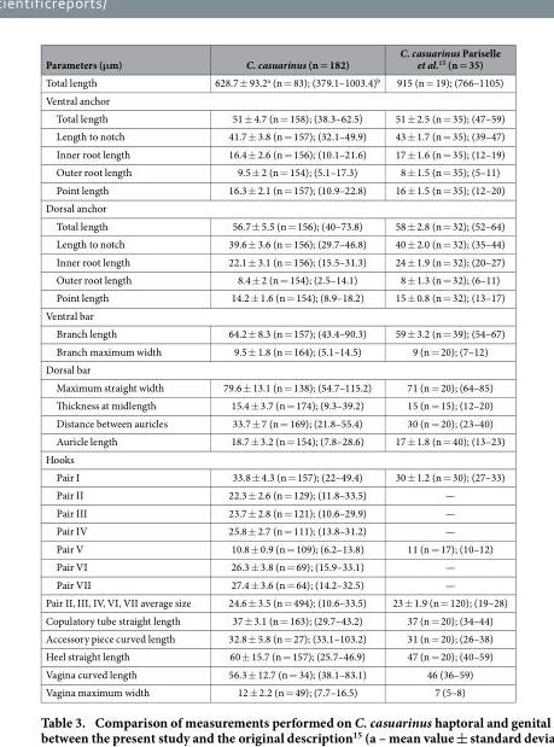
<table><thead><tr><td>Parameters (μm)</td><td>C. casuarinus (n = 182)</td><td>C. casuarinus Pariselle et al.<sup>15</sup> (n = 35)</td></tr></thead><tbody><tr><td>Total length</td><td>628.7 ± 93.2<sup>a</sup> (n = 83); (379.1–1003.4)<sup>b</sup></td><td>915 (n = 19); (766–1105)</td></tr><tr><td colspan="3">Ventral anchor</td></tr><tr><td>Total length</td><td>51 ± 4.7 (n = 158); (38.3–62.5)</td><td>51 ± 2.5 (n = 35); (47–59)</td></tr><tr><td>Length to notch</td><td>41.7 ± 3.8 (n = 157); (32.1–49.9)</td><td>43 ± 1.7 (n = 35); (39–47)</td></tr><tr><td>Inner root length</td><td>16.4 ± 2.6 (n = 156); (10.1–21.6)</td><td>17 ± 1.6 (n = 35); (12–19)</td></tr><tr><td>Outer root length</td><td>9.5 ± 2 (n = 154); (5.1–17.3)</td><td>8 ± 1.5 (n = 35); (5–11)</td></tr><tr><td>Point length</td><td>16.3 ± 2.1 (n = 157); (10.9–22.8)</td><td>16 ± 1.5 (n = 35); (12–20)</td></tr><tr><td colspan="3">Dorsal anchor</td></tr><tr><td>Total length</td><td>56.7 ± 5.5 (n = 156); (40–73.8)</td><td>58 ± 2.8 (n = 32); (52–64)</td></tr><tr><td>Length to notch</td><td>39.6 ± 3.6 (n = 156); (29.7–46.8)</td><td>40 ± 2.0 (n = 32); (35–44)</td></tr><tr><td>Inner root length</td><td>22.1 ± 3.1 (n = 156); (15.5–31.3)</td><td>24 ± 1.9 (n = 32); (20–27)</td></tr><tr><td>Outer root length</td><td>8.4 ± 2 (n = 154); (2.5–14.1)</td><td>8 ± 1.3 (n = 32); (6–11)</td></tr><tr><td>Point length</td><td>14.2 ± 1.6 (n = 154); (8.9–18.2)</td><td>15 ± 0.8 (n = 32); (13–17)</td></tr><tr><td colspan="3">Ventral bar</td></tr><tr><td>Branch length</td><td>64.2 ± 8.3 (n = 157); (43.4–90.3)</td><td>59 ± 3.2 (n = 39); (54–67)</td></tr><tr><td>Branch maximum width</td><td>9.5 ± 1.8 (n = 164); (5.1–14.5)</td><td>9 (n = 20); (7–12)</td></tr><tr><td colspan="3">Dorsal bar</td></tr><tr><td>Maximum straight width</td><td>79.6 ± 13.1 (n = 138); (54.7–115.2)</td><td>71 (n = 20); (64–85)</td></tr><tr><td>Thickness at midlength</td><td>15.4 ± 3.7 (n = 174); (9.3–39.2)</td><td>15 (n = 15); (12–20)</td></tr><tr><td>Distance between auricles</td><td>33.7 ± 7 (n = 169); (21.8–55.4)</td><td>30 (n = 20); (23–40)</td></tr><tr><td>Auricle length</td><td>18.7 ± 3.2 (n = 154); (7.8–28.6)</td><td>17 ± 1.8 (n = 40); (13–23)</td></tr><tr><td colspan="3">Hooks</td></tr><tr><td>Pair I</td><td>33.8 ± 4.3 (n = 157); (22–49.4)</td><td>30 ± 1.2 (n = 30); (27–33)</td></tr><tr><td>Pair II</td><td>22.3 ± 2.6 (n = 129); (11.8–33.5)</td><td>—</td></tr><tr><td>Pair III</td><td>23.7 ± 2.8 (n = 121); (10.6–29.9)</td><td>—</td></tr><tr><td>Pair IV</td><td>25.8 ± 2.7 (n = 111); (13.8–31.2)</td><td>—</td></tr><tr><td>Pair V</td><td>10.8 ± 0.9 (n = 109); (6.2–13.8)</td><td>11 (n = 17); (10–12)</td></tr><tr><td>Pair VI</td><td>26.3 ± 3.8 (n = 69); (15.9–33.1)</td><td>—</td></tr><tr><td>Pair VII</td><td>27.4 ± 3.6 (n = 64); (14.2–32.5)</td><td>—</td></tr><tr><td>Pair II, III, IV, VI, VII average size</td><td>24.6 ± 3.5 (n = 494); (10.6–33.5)</td><td>23 ± 1.9 (n = 120); (19–28)</td></tr><tr><td>Copulatory tube straight length</td><td>37 ± 3.1 (n = 163); (29.7–43.2)</td><td>37 (n = 20); (34–44)</td></tr><tr><td>Accessory piece curved length</td><td>32.8 ± 5.8 (n = 27); (33.1–103.2)</td><td>31 (n = 20); (26–38)</td></tr><tr><td>Heel straight length</td><td>60 ± 15.7 (n = 157); (25.7–46.9)</td><td>47 (n = 20); (40–59)</td></tr><tr><td>Vagina curved length</td><td>56.3 ± 12.7 (n = 34); (38.1–83.1)</td><td>46 (36–59)</td></tr><tr><td>Vagina maximum width</td><td>12 ± 2.2 (n = 49); (7.7–16.5)</td><td>7 (5–8)</td></tr></tbody></table>